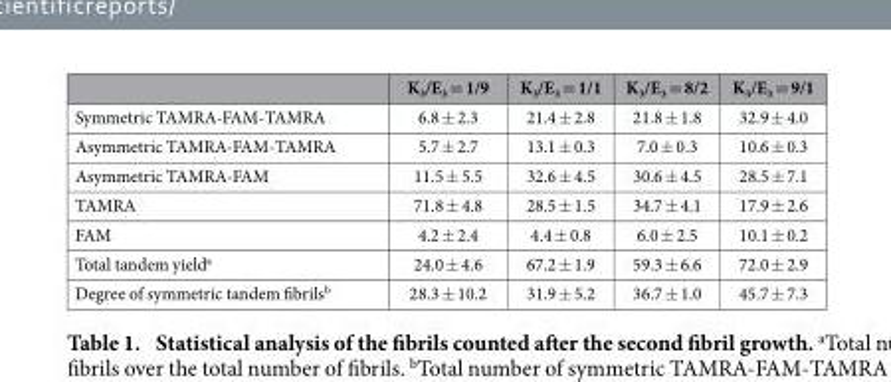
<table><thead><tr><td></td><td>K<sub>3</sub>/E<sub>3</sub> = 1/9</td><td>K<sub>3</sub>/E<sub>3</sub> = 1/1</td><td>K<sub>3</sub>/E<sub>3</sub> = 8/2</td><td>K<sub>3</sub>/E<sub>3</sub> = 9/1</td></tr></thead><tbody><tr><td>Symmetric TAMRA-FAM-TAMRA</td><td>6.8 ± 2.3</td><td>21.4 ± 2.8</td><td>21.8 ± 1.8</td><td>32.9 ± 4.0</td></tr><tr><td>Asymmetric TAMRA-FAM-TAMRA</td><td>5.7 ± 2.7</td><td>13.1 ± 0.3</td><td>7.0 ± 0.3</td><td>10.6 ± 0.3</td></tr><tr><td>Asymmetric TAMRA-FAM</td><td>11.5 ± 5.5</td><td>32.6 ± 4.5</td><td>30.6 ± 4.5</td><td>28.5 ± 7.1</td></tr><tr><td>TAMRA</td><td>71.8 ± 4.8</td><td>28.5 ± 1.5</td><td>34.7 ± 4.1</td><td>17.9 ± 2.6</td></tr><tr><td>FAM</td><td>4.2 ± 2.4</td><td>4.4 ± 0.8</td><td>6.0 ± 2.5</td><td>10.1 ± 0.2</td></tr><tr><td>Total tandem yield<sup>a</sup></td><td>24.0 ± 4.6</td><td>67.2 ± 1.9</td><td>59.3 ± 6.6</td><td>72.0 ± 2.9</td></tr><tr><td>Degree of symmetric tandem fibrils<sup>b</sup></td><td>28.3 ± 10.2</td><td>31.9 ± 5.2</td><td>36.7 ± 1.0</td><td>45.7 ± 7.3</td></tr></tbody></table>